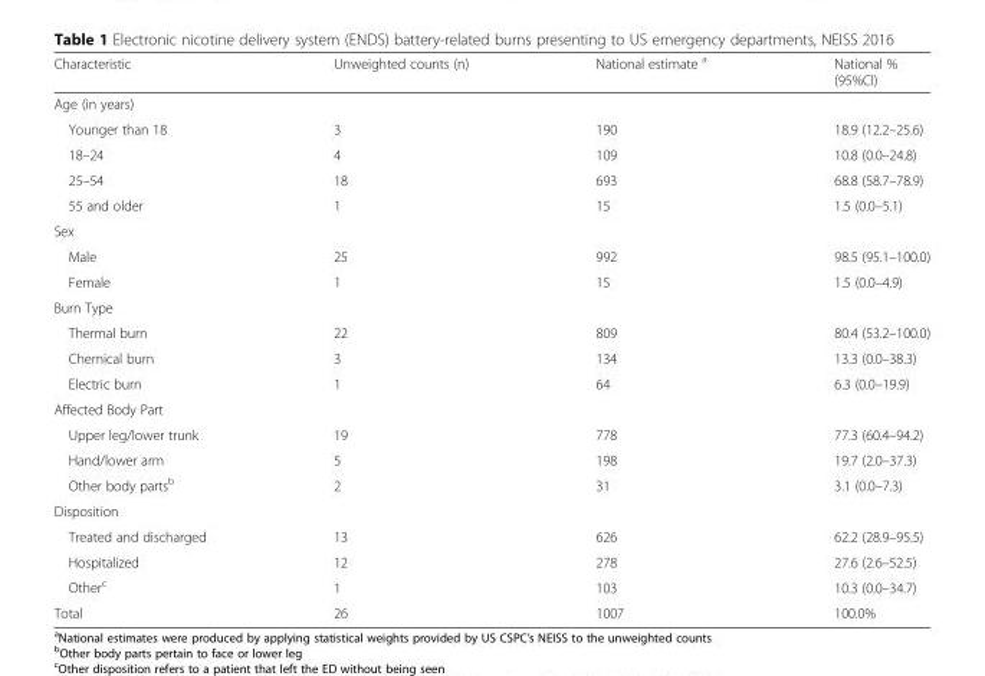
<table><thead><tr><td>Characteristic</td><td>Unweighted counts (n)</td><td>National estimate <sup>a</sup></td><td>National % (95%Cl)</td></tr></thead><tbody><tr><td colspan="4">Age (in years)</td></tr><tr><td>Younger than 18</td><td>3</td><td>190</td><td>18.9 (12.2–25.6)</td></tr><tr><td>18–24</td><td>4</td><td>109</td><td>10.8 (0.0–24.8)</td></tr><tr><td>25–54</td><td>18</td><td>693</td><td>68.8 (58.7–78.9)</td></tr><tr><td>55 and older</td><td>1</td><td>15</td><td>1.5 (0.0–5.1)</td></tr><tr><td colspan="4">Sex</td></tr><tr><td>Male</td><td>25</td><td>992</td><td>98.5 (95.1–100.0)</td></tr><tr><td>Female</td><td>1</td><td>15</td><td>1.5 (0.0–4.9)</td></tr><tr><td colspan="4">Burn Type</td></tr><tr><td>Thermal burn</td><td>22</td><td>809</td><td>80.4 (53.2–100.0)</td></tr><tr><td>Chemical burn</td><td>3</td><td>134</td><td>13.3 (0.0–38.3)</td></tr><tr><td>Electric burn</td><td>1</td><td>64</td><td>6.3 (0.0–19.9)</td></tr><tr><td colspan="4">Affected Body Part</td></tr><tr><td>Upper leg/lower trunk</td><td>19</td><td>778</td><td>77.3 (60.4–94.2)</td></tr><tr><td>Hand/lower arm</td><td>5</td><td>198</td><td>19.7 (2.0–37.3)</td></tr><tr><td>Other body parts<sup>b</sup></td><td>2</td><td>31</td><td>3.1 (0.0–7.3)</td></tr><tr><td colspan="4">Disposition</td></tr><tr><td>Treated and discharged</td><td>13</td><td>626</td><td>62.2 (28.9–95.5)</td></tr><tr><td>Hospitalized</td><td>12</td><td>278</td><td>27.6 (2.6–52.5)</td></tr><tr><td>Other<sup>c</sup></td><td>1</td><td>103</td><td>10.3 (0.0–34.7)</td></tr><tr><td>Total</td><td>26</td><td>1007</td><td>100.0%</td></tr></tbody></table>